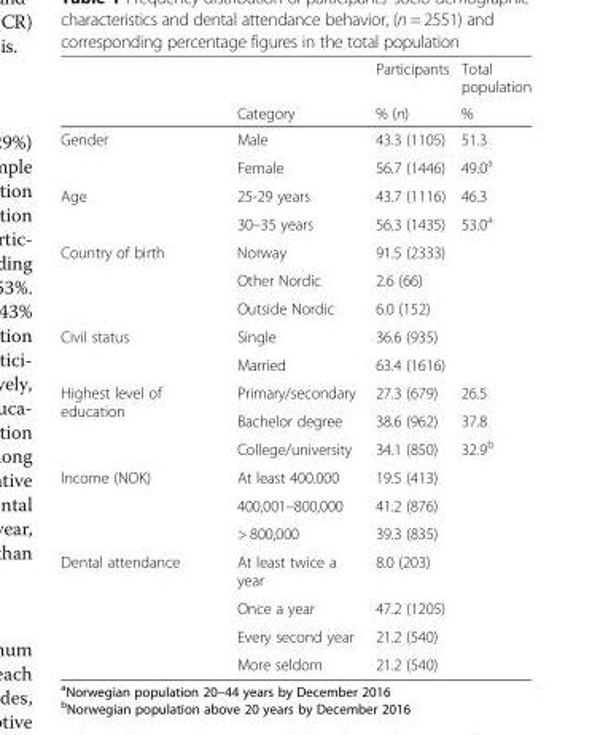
<table><thead><tr><td rowspan="2"></td><td rowspan="2">Category</td><td rowspan="2">Participants % (n)</td><td rowspan="2">Total population %</td></tr><tr></tr></thead><tbody><tr><td rowspan="2">Gender</td><td>Male</td><td>43.3 (1105)</td><td>51.3</td></tr><tr><td>Female</td><td>56.7 (1446)</td><td>49.0<sup>a</sup></td></tr><tr><td rowspan="2">Age</td><td>25-29 years</td><td>43.7 (1116)</td><td>46.3</td></tr><tr><td>30–35 years</td><td>56.3 (1435)</td><td>53.0<sup>a</sup></td></tr><tr><td rowspan="3">Country of birth</td><td>Norway</td><td>91.5 (2333)</td><td></td></tr><tr><td>Other Nordic</td><td>2.6 (66)</td><td></td></tr><tr><td>Outside Nordic</td><td>6.0 (152)</td><td></td></tr><tr><td rowspan="2">Civil status</td><td>Single</td><td>36.6 (935)</td><td></td></tr><tr><td>Married</td><td>63.4 (1616)</td><td></td></tr><tr><td rowspan="3">Highest level of education</td><td>Primary/secondary</td><td>27.3 (679)</td><td>26.5</td></tr><tr><td>Bachelor degree</td><td>38.6 (962)</td><td>37.8</td></tr><tr><td>College/university</td><td>34.1 (850)</td><td>32.9<sup>b</sup></td></tr><tr><td rowspan="3">Income (NOK)</td><td>At least 400.000</td><td>19.5 (413)</td><td></td></tr><tr><td>400,001–800,000</td><td>41.2 (876)</td><td></td></tr><tr><td>&gt; 800,000</td><td>39.3 (835)</td><td></td></tr><tr><td rowspan="4">Dental attendance</td><td>At least twice a year</td><td>8.0 (203)</td><td></td></tr><tr><td>Once a year</td><td>47.2 (1205)</td><td></td></tr><tr><td>Every second year</td><td>21.2 (540)</td><td></td></tr><tr><td>More seldom</td><td>21.2 (540)</td><td></td></tr></tbody></table>